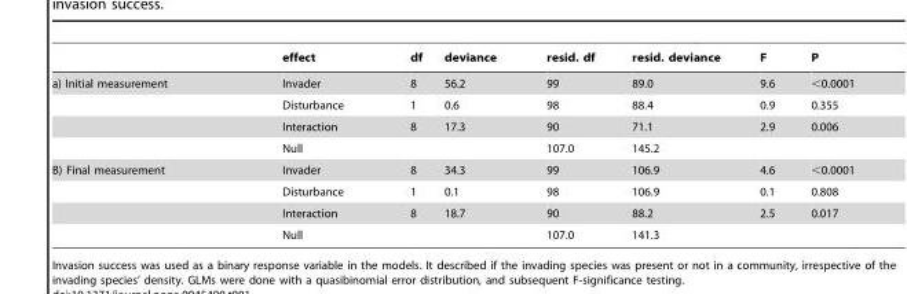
<table><thead><tr><td></td><td>effect</td><td>df</td><td>deviance</td><td>resid. df</td><td>resid. deviance</td><td>F</td><td>P</td></tr></thead><tbody><tr><td rowspan="4">a) Initial measurement</td><td>Invader</td><td>8</td><td>56.2</td><td>99</td><td>89.0</td><td>9.6</td><td>&lt;0.0001</td></tr><tr><td>Disturbance</td><td>1</td><td>0.6</td><td>98</td><td>88.4</td><td>0.9</td><td>0.355</td></tr><tr><td>Interaction</td><td>8</td><td>17.3</td><td>90</td><td>71.1</td><td>2.9</td><td>0.006</td></tr><tr><td>Null</td><td></td><td></td><td>107.0</td><td>145.2</td><td></td><td></td></tr><tr><td rowspan="4">B) Final measurement</td><td>Invader</td><td>8</td><td>34.3</td><td>99</td><td>106.9</td><td>4.6</td><td>&lt;0.0001</td></tr><tr><td>Disturbance</td><td>1</td><td>0.1</td><td>98</td><td>106.9</td><td>0.1</td><td>0.808</td></tr><tr><td>Interaction</td><td>8</td><td>18.7</td><td>90</td><td>88.2</td><td>2.5</td><td>0.017</td></tr><tr><td>Null</td><td></td><td></td><td>107.0</td><td>141.3</td><td></td><td></td></tr></tbody></table>